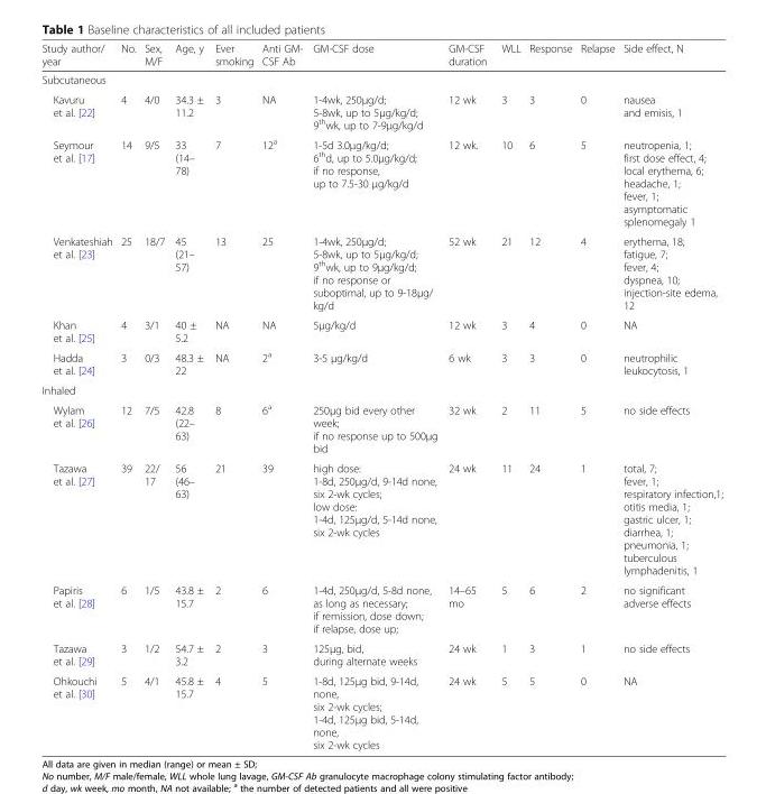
<table><thead><tr><td>Study author/ year</td><td>No.</td><td>Sex, M/F</td><td>Age, y</td><td>Ever smoking</td><td>Anti GM- CSF Ab</td><td>GM-CSF dose</td><td>GM-CSF duration</td><td>WLL</td><td>Response</td><td>Relapse</td><td>Side effect, N</td></tr></thead><tbody><tr><td colspan="12">Subcutaneous</td></tr><tr><td>Kavuru et al. [22]</td><td>4</td><td>4/0</td><td>34.3 ± 11.2</td><td>3</td><td>NA</td><td>1-4wk, 250μg/d; 5-8wk, up to 5μg/kg/d; 9<sup>th</sup>wk, up to 7-9μg/kg/d</td><td>12 wk</td><td>3</td><td>3</td><td>0</td><td>nausea and emisis, 1</td></tr><tr><td>Seymour et al. [17]</td><td>14</td><td>9/5</td><td>33 (14– 78)</td><td>7</td><td>12<sup>a</sup></td><td>1-5d 3.0μg/kg/d; 6<sup>th</sup>d, up to 5.0μg/kg/d; if no response, up to 7.5-30 μg/kg/d</td><td>12 wk.</td><td>10</td><td>6</td><td>5</td><td>neutropenia, 1; first dose effect, 4; local erythema, 6; headache, 1; fever, 1; asymptomatic splenomegaly 1</td></tr><tr><td>Venkateshiah et al. [23]</td><td>25</td><td>18/7</td><td>45 (21– 57)</td><td>13</td><td>25</td><td>1-4wk, 250μg/d; 5-8wk, up to 5μg/kg/d; 9<sup>th</sup>wk, up to 9μg/kg/d; if no response or suboptimal, up to 9-18μg/ kg/d</td><td>52 wk</td><td>21</td><td>12</td><td>4</td><td>erythema, 18; fatigue, 7; fever, 4; dyspnea, 10; injection-site edema, 12</td></tr><tr><td>Khan et al. [25]</td><td>4</td><td>3/1</td><td>40 ± 5.2</td><td>NA</td><td>NA</td><td>5μg/kg/d</td><td>12 wk</td><td>3</td><td>4</td><td>0</td><td>NA</td></tr><tr><td>Hadda et al. [24]</td><td>3</td><td>0/3</td><td>48.3 ± 22</td><td>NA</td><td>2<sup>a</sup></td><td>3-5 μg/kg/d</td><td>6 wk</td><td>3</td><td>3</td><td>0</td><td>neutrophilic leukocytosis, 1</td></tr><tr><td colspan="12">Inhaled</td></tr><tr><td>Wylam et al. [26]</td><td>12</td><td>7/5</td><td>42.8 (22– 63)</td><td>8</td><td>6<sup>a</sup></td><td>250μg bid every other week; if no response up to 500μg bid</td><td>32 wk</td><td>2</td><td>11</td><td>5</td><td>no side effects</td></tr><tr><td>Tazawa et al. [27]</td><td>39</td><td>22/ 17</td><td>56 (46– 63)</td><td>21</td><td>39</td><td>high dose: 1-8d, 250μg/d, 9-14d none, six 2-wk cycles; low dose: 1-4d, 125μg/d, 5-14d none, six 2-wk cycles</td><td>24 wk</td><td>11</td><td>24</td><td>1</td><td>total, 7; fever, 1; respiratory infection,1; otitis media, 1; gastric ulcer, 1; diarrhea, 1; pneumonia, 1; tuberculous lymphadenitis, 1</td></tr><tr><td>Papiris et al. [28]</td><td>6</td><td>1/5</td><td>43.8 ± 15.7</td><td>2</td><td>6</td><td>1-4d, 250μg/d, 5-8d none, as long as necessary; if remission, dose down; if relapse, dose up;</td><td>14–65 mo</td><td>5</td><td>6</td><td>2</td><td>no significant adverse effects</td></tr><tr><td>Tazawa et al. [29]</td><td>3</td><td>1/2</td><td>54.7 ± 3.2</td><td>2</td><td>3</td><td>125μg, bid, during alternate weeks</td><td>24 wk</td><td>1</td><td>3</td><td>1</td><td>no side effects</td></tr><tr><td>Ohkouchi et al. [30]</td><td>5</td><td>4/1</td><td>45.8 ± 15.7</td><td>4</td><td>5</td><td>1-8d, 125μg bid, 9-14d, none, six 2-wk cycles; 1-4d, 125μg bid, 5-14d, none, six 2-wk cycles</td><td>24 wk</td><td>5</td><td>5</td><td>0</td><td>NA</td></tr></tbody></table>